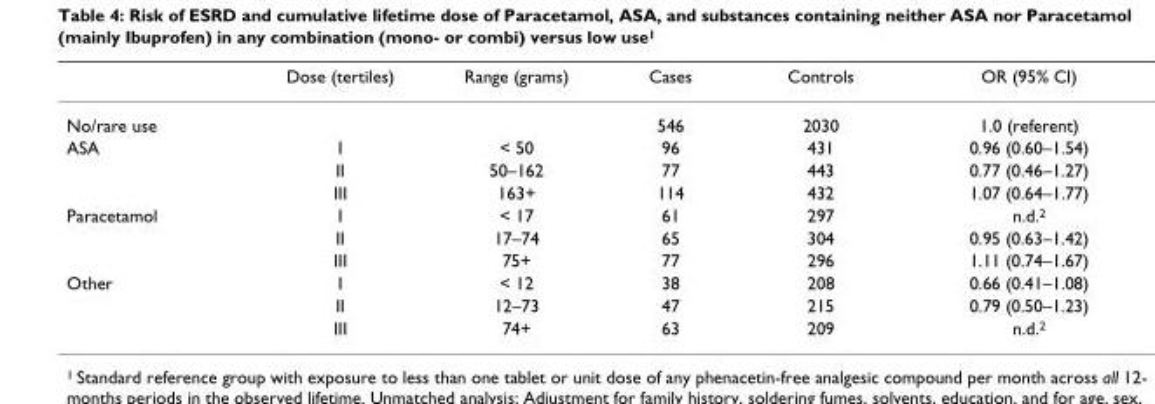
<table><thead><tr><td></td><td>Dose (tertiles)</td><td>Range (grams)</td><td>Cases</td><td>Controls</td><td>OR (95% CI)</td></tr></thead><tbody><tr><td>No/rare use</td><td></td><td></td><td>546</td><td>2030</td><td>1.0 (referent)</td></tr><tr><td rowspan="3">ASA</td><td>I</td><td>&lt; 50</td><td>96</td><td>431</td><td>0.96 (0.60–1.54)</td></tr><tr><td>II</td><td>50–162</td><td>77</td><td>443</td><td>0.77 (0.46–1.27)</td></tr><tr><td>III</td><td>163+</td><td>114</td><td>432</td><td>1.07 (0.64–1.77)</td></tr><tr><td rowspan="3">Paracetamol</td><td>I</td><td>&lt; 17</td><td>61</td><td>297</td><td>n.d.<sup>2</sup></td></tr><tr><td>II</td><td>17–74</td><td>65</td><td>304</td><td>0.95 (0.63–1.42)</td></tr><tr><td>III</td><td>75+</td><td>77</td><td>296</td><td>1.11 (0.74–1.67)</td></tr><tr><td rowspan="3">Other</td><td>I</td><td>&lt; 12</td><td>38</td><td>208</td><td>0.66 (0.41–1.08)</td></tr><tr><td>II</td><td>12–73</td><td>47</td><td>215</td><td>0.79 (0.50–1.23)</td></tr><tr><td>III</td><td>74+</td><td>63</td><td>209</td><td>n.d.<sup>2</sup></td></tr></tbody></table>